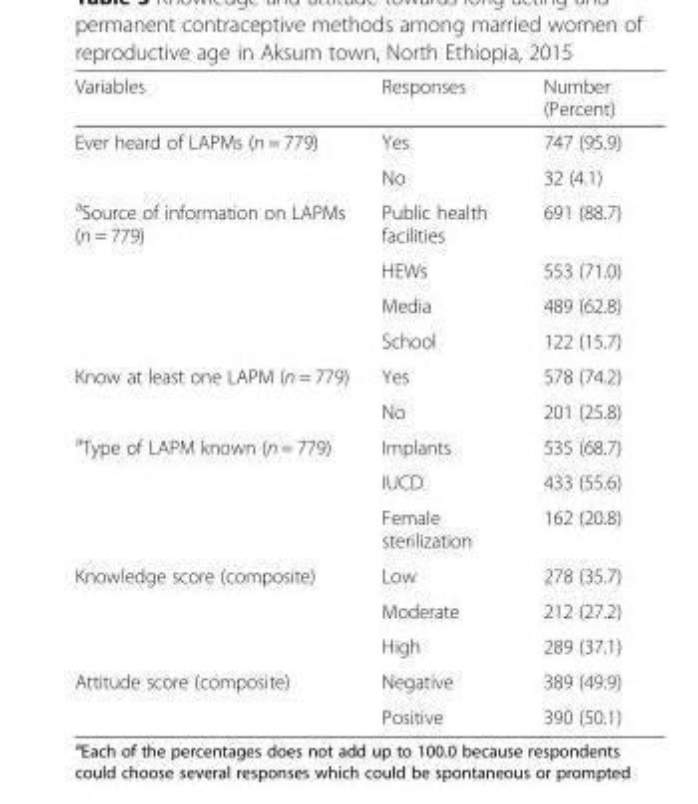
<table><thead><tr><td>Variables</td><td>Responses</td><td>Number (Percent)</td></tr></thead><tbody><tr><td rowspan="2">Ever heard of LAPMs (n = 779)</td><td>Yes</td><td>747 (95.9)</td></tr><tr><td>No</td><td>32 (4.1)</td></tr><tr><td rowspan="4"><sup>a</sup>Source of information on LAPMs (n = 779)</td><td>Public health facilities</td><td>691 (88.7)</td></tr><tr><td>HEWs</td><td>553 (71.0)</td></tr><tr><td>Media</td><td>489 (62.8)</td></tr><tr><td>School</td><td>122 (15.7)</td></tr><tr><td rowspan="2">Know at least one LAPM (n = 779)</td><td>Yes</td><td>578 (74.2)</td></tr><tr><td>No</td><td>201 (25.8)</td></tr><tr><td rowspan="3"><sup>a</sup>Type of LAPM known (n = 779)</td><td>Implants</td><td>535 (68.7)</td></tr><tr><td>IUCD</td><td>433 (55.6)</td></tr><tr><td>Female sterilization</td><td>162 (20.8)</td></tr><tr><td rowspan="3">Knowledge score (composite)</td><td>Low</td><td>278 (35.7)</td></tr><tr><td>Moderate</td><td>212 (27.2)</td></tr><tr><td>High</td><td>289 (37.1)</td></tr><tr><td rowspan="2">Attitude score (composite)</td><td>Negative</td><td>389 (49.9)</td></tr><tr><td>Positive</td><td>390 (50.1)</td></tr></tbody></table>